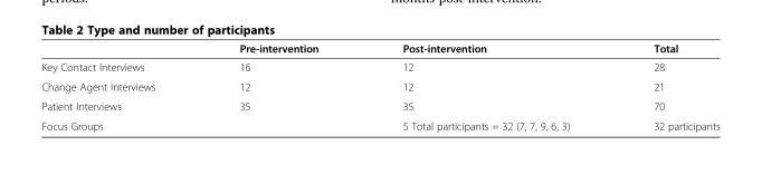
<table><thead><tr><td></td><td>Pre-intervention</td><td>Post-intervention</td><td>Total</td></tr></thead><tbody><tr><td>Key Contact Interviews</td><td>16</td><td>12</td><td>28</td></tr><tr><td>Change Agent Interviews</td><td>12</td><td>12</td><td>21</td></tr><tr><td>Patient Interviews</td><td>35</td><td>35</td><td>70</td></tr><tr><td>Focus Groups</td><td></td><td>5 Total participants = 32 (7, 7, 9, 6, 3)</td><td>32 participants</td></tr></tbody></table>